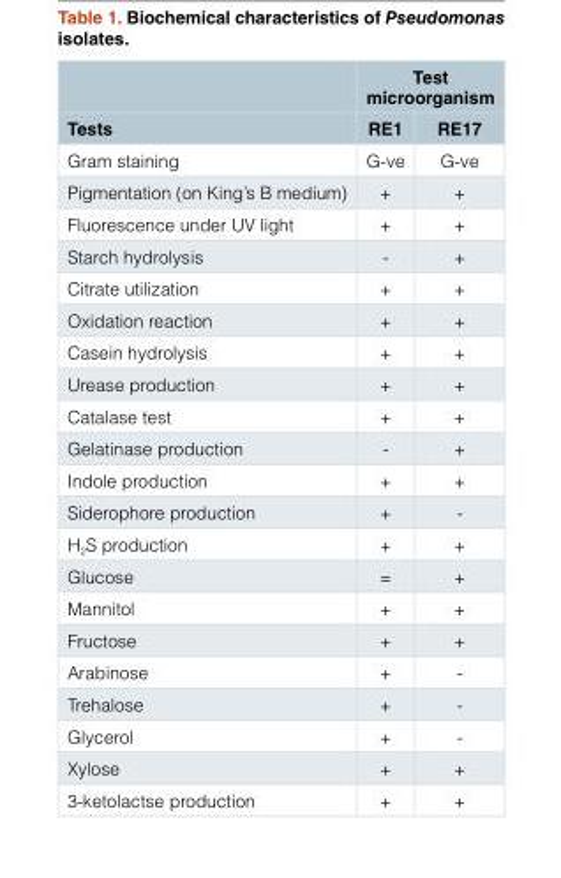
<table><thead><tr><td rowspan="2">Tests</td><td colspan="2">Test microorganism</td></tr><tr><td>RE1</td><td>RE17</td></tr></thead><tbody><tr><td>Gram staining</td><td>G-ve</td><td>G-ve</td></tr><tr><td>Pigmentation (on King’s B medium)</td><td>+</td><td>+</td></tr><tr><td>Fluorescence under UV light</td><td>+</td><td>+</td></tr><tr><td>Starch hydrolysis</td><td>-</td><td>+</td></tr><tr><td>Citrate utilization</td><td>+</td><td>+</td></tr><tr><td>Oxidation reaction</td><td>+</td><td>+</td></tr><tr><td>Casein hydrolysis</td><td>+</td><td>+</td></tr><tr><td>Urease production</td><td>+</td><td>+</td></tr><tr><td>Catalase test</td><td>+</td><td>+</td></tr><tr><td>Gelatinase production</td><td>-</td><td>+</td></tr><tr><td>Indole production</td><td>+</td><td>+</td></tr><tr><td>Siderophore production</td><td>+</td><td>-</td></tr><tr><td>H<sub>2</sub>S production</td><td>+</td><td>+</td></tr><tr><td>Glucose</td><td>=</td><td>+</td></tr><tr><td>Mannitol</td><td>+</td><td>+</td></tr><tr><td>Fructose</td><td>+</td><td>+</td></tr><tr><td>Arabinose</td><td>+</td><td>-</td></tr><tr><td>Trehalose</td><td>+</td><td>-</td></tr><tr><td>Glycerol</td><td>+</td><td>-</td></tr><tr><td>Xylose</td><td>+</td><td>+</td></tr><tr><td>3-ketolactse production</td><td>+</td><td>+</td></tr></tbody></table>